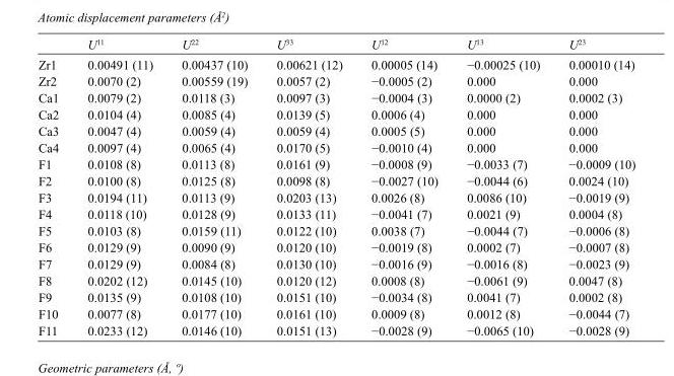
<table><thead><tr><td></td><td>U<sup>11</sup></td><td>U<sup>22</sup></td><td>U<sup>33</sup></td><td>U<sup>12</sup></td><td>U<sup>13</sup></td><td>U<sup>23</sup></td></tr></thead><tbody><tr><td>Zr1</td><td>0.00491 (11)</td><td>0.00437 (10)</td><td>0.00621 (12)</td><td>0.00005 (14)</td><td>−0.00025 (10)</td><td>0.00010 (14)</td></tr><tr><td>Zr2</td><td>0.0070 (2)</td><td>0.00559 (19)</td><td>0.0057 (2)</td><td>−0.0005 (2)</td><td>0.000</td><td>0.000</td></tr><tr><td>Ca1</td><td>0.0079 (2)</td><td>0.0118 (3)</td><td>0.0097 (3)</td><td>−0.0004 (3)</td><td>0.0000 (2)</td><td>0.0002 (3)</td></tr><tr><td>Ca2</td><td>0.0104 (4)</td><td>0.0085 (4)</td><td>0.0139 (5)</td><td>0.0006 (4)</td><td>0.000</td><td>0.000</td></tr><tr><td>Ca3</td><td>0.0047 (4)</td><td>0.0059 (4)</td><td>0.0059 (4)</td><td>0.0005 (5)</td><td>0.000</td><td>0.000</td></tr><tr><td>Ca4</td><td>0.0097 (4)</td><td>0.0065 (4)</td><td>0.0170 (5)</td><td>−0.0010 (4)</td><td>0.000</td><td>0.000</td></tr><tr><td>F1</td><td>0.0108 (8)</td><td>0.0113 (8)</td><td>0.0161 (9)</td><td>−0.0008 (9)</td><td>−0.0033 (7)</td><td>−0.0009 (10)</td></tr><tr><td>F2</td><td>0.0100 (8)</td><td>0.0125 (8)</td><td>0.0098 (8)</td><td>−0.0027 (10)</td><td>−0.0044 (6)</td><td>0.0024 (10)</td></tr><tr><td>F3</td><td>0.0194 (11)</td><td>0.0113 (9)</td><td>0.0203 (13)</td><td>0.0026 (8)</td><td>0.0086 (10)</td><td>−0.0019 (9)</td></tr><tr><td>F4</td><td>0.0118 (10)</td><td>0.0128 (9)</td><td>0.0133 (11)</td><td>−0.0041 (7)</td><td>0.0021 (9)</td><td>0.0004 (8)</td></tr><tr><td>F5</td><td>0.0103 (8)</td><td>0.0159 (11)</td><td>0.0122 (10)</td><td>0.0038 (7)</td><td>−0.0044 (7)</td><td>−0.0006 (8)</td></tr><tr><td>F6</td><td>0.0129 (9)</td><td>0.0090 (9)</td><td>0.0120 (10)</td><td>−0.0019 (8)</td><td>0.0002 (7)</td><td>−0.0007 (8)</td></tr><tr><td>F7</td><td>0.0129 (9)</td><td>0.0084 (8)</td><td>0.0130 (10)</td><td>−0.0016 (9)</td><td>−0.0016 (8)</td><td>−0.0023 (9)</td></tr><tr><td>F8</td><td>0.0202 (12)</td><td>0.0145 (10)</td><td>0.0120 (12)</td><td>0.0008 (8)</td><td>−0.0061 (9)</td><td>0.0047 (8)</td></tr><tr><td>F9</td><td>0.0135 (9)</td><td>0.0108 (10)</td><td>0.0151 (10)</td><td>−0.0034 (8)</td><td>0.0041 (7)</td><td>0.0002 (8)</td></tr><tr><td>F10</td><td>0.0077 (8)</td><td>0.0177 (10)</td><td>0.0161 (10)</td><td>0.0009 (8)</td><td>0.0012 (8)</td><td>−0.0044 (7)</td></tr><tr><td>F11</td><td>0.0233 (12)</td><td>0.0146 (10)</td><td>0.0151 (13)</td><td>−0.0028 (9)</td><td>−0.0065 (10)</td><td>−0.0028 (9)</td></tr></tbody></table>